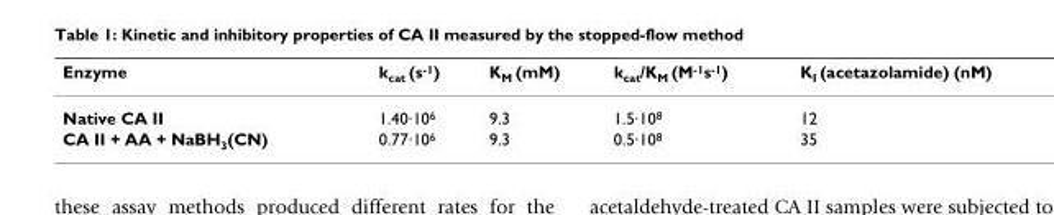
<table><thead><tr><td>Enzyme</td><td>k<sub>cat</sub> (s<sup>-1</sup>)</td><td>K<sub>M</sub> (mM)</td><td>k<sub>cat</sub>/K<sub>M</sub> (M<sup>-1</sup>s<sup>-1</sup>)</td><td>K<sub>I</sub> (acetazolamide) (nM)</td></tr></thead><tbody><tr><td>Native CA II</td><td>1.40·10<sup>6</sup></td><td>9.3</td><td>1.5·10<sup>8</sup></td><td>12</td></tr><tr><td>CA II + AA + NaBH<sub>3</sub>(CN)</td><td>0.77·10<sup>6</sup></td><td>9.3</td><td>0.5·10<sup>8</sup></td><td>35</td></tr></tbody></table>